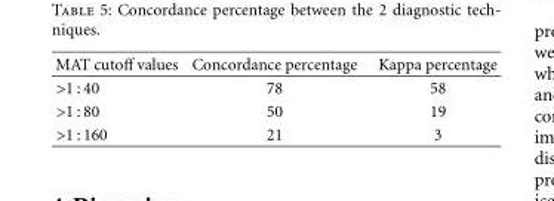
<table><thead><tr><td>MAT cutoff values</td><td>Concordance percentage</td><td>Kappa percentage</td></tr></thead><tbody><tr><td>&gt;1 : 40</td><td>78</td><td>58</td></tr><tr><td>&gt;1 : 80</td><td>50</td><td>19</td></tr><tr><td>&gt;1 : 160</td><td>21</td><td>3</td></tr></tbody></table>